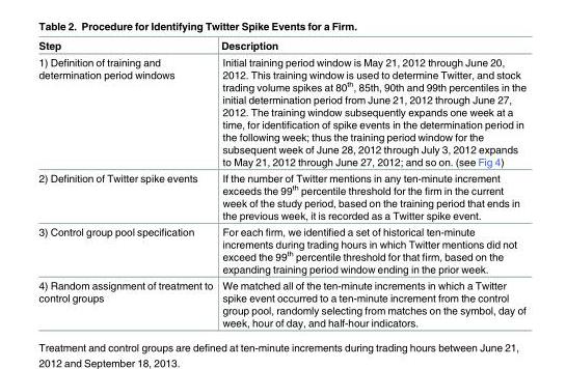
<table><thead><tr><td>Step</td><td>Description</td></tr></thead><tbody><tr><td>1) Definition of training and determination period windows</td><td>Initial training period window is May 21, 2012 through June 20, 2012. This training window is used to determine Twitter, and stock trading volume spikes at 80<sup>th</sup>, 85th, 90th and 99th percentiles in the initial determination period from June 21, 2012 through June 27, 2012. The training window subsequently expands one week at a time, for identification of spike events in the determination period in the following week; thus the training period window for the subsequent week of June 28, 2012 through July 3, 2012 expands to May 21, 2012 through June 27, 2012; and so on. (see Fig 4)</td></tr><tr><td>2) Definition of Twitter spike events</td><td>If the number of Twitter mentions in any ten-minute increment exceeds the 99<sup>th</sup> percentile threshold for the firm in the current week of the study period, based on the training period that ends in the previous week, it is recorded as a Twitter spike event.</td></tr><tr><td>3) Control group pool specification</td><td>For each firm, we identified a set of historical ten-minute increments during trading hours in which Twitter mentions did not exceed the 99<sup>th</sup> percentile threshold for that firm, based on the expanding training period window ending in the prior week.</td></tr><tr><td>4) Random assignment of treatment to control groups</td><td>We matched all of the ten-minute increments in which a Twitter spike event occurred to a ten-minute increment from the control group pool, randomly selecting from matches on the symbol, day of week, hour of day, and half-hour indicators.</td></tr></tbody></table>